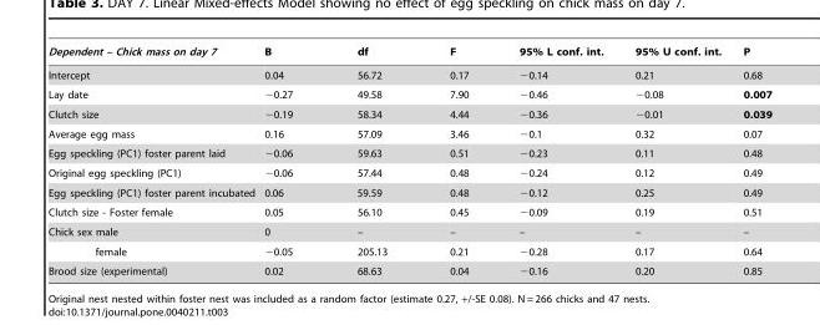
<table><thead><tr><td>Dependent – Chick mass on day 7</td><td>B</td><td>df</td><td>F</td><td>95% L conf. int.</td><td>95% U conf. int.</td><td>P</td></tr></thead><tbody><tr><td>Intercept</td><td>0.04</td><td>56.72</td><td>0.17</td><td>−0.14</td><td>0.21</td><td>0.68</td></tr><tr><td>Lay date</td><td>−0.27</td><td>49.58</td><td>7.90</td><td>−0.46</td><td>−0.08</td><td>0.007</td></tr><tr><td>Clutch size</td><td>−0.19</td><td>58.34</td><td>4.44</td><td>−0.36</td><td>−0.01</td><td>0.039</td></tr><tr><td>Average egg mass</td><td>0.16</td><td>57.09</td><td>3.46</td><td>−0.1</td><td>0.32</td><td>0.07</td></tr><tr><td>Egg speckling (PC1) foster parent laid</td><td>−0.06</td><td>59.63</td><td>0.51</td><td>−0.23</td><td>0.11</td><td>0.48</td></tr><tr><td>Original egg speckling (PC1)</td><td>−0.06</td><td>57.44</td><td>0.48</td><td>−0.24</td><td>0.12</td><td>0.49</td></tr><tr><td>Egg speckling (PC1) foster parent incubated</td><td>0.06</td><td>59.59</td><td>0.48</td><td>−0.12</td><td>0.25</td><td>0.49</td></tr><tr><td>Clutch size - Foster female</td><td>0.05</td><td>56.10</td><td>0.45</td><td>−0.09</td><td>0.19</td><td>0.51</td></tr><tr><td>Chick sex male</td><td>0</td><td>–</td><td>–</td><td>–</td><td>–</td><td>–</td></tr><tr><td>female</td><td>−0.05</td><td>205.13</td><td>0.21</td><td>−0.28</td><td>0.17</td><td>0.64</td></tr><tr><td>Brood size (experimental)</td><td>0.02</td><td>68.63</td><td>0.04</td><td>−0.16</td><td>0.20</td><td>0.85</td></tr></tbody></table>